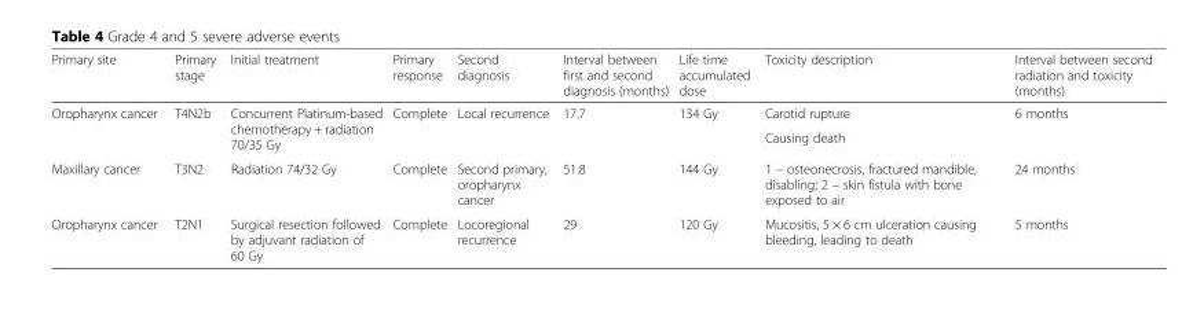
<table><thead><tr><td>Primary site</td><td>Primary stage</td><td>Initial treatment</td><td>Primary response</td><td>Second diagnosis</td><td>Interval between first and second diagnosis (months)</td><td>Life time accumulated dose</td><td>Toxicity description</td><td>Interval between second radiation and toxicity (months)</td></tr></thead><tbody><tr><td rowspan="2">Oropharynx cancer</td><td rowspan="2">T4N2b</td><td rowspan="2">Concurrent Platinum-based chemotherapy + radiation 70/35 Gy</td><td rowspan="2">Complete</td><td rowspan="2">Local recurrence</td><td rowspan="2">17.7</td><td rowspan="2">134 Gy</td><td>Carotid rupture</td><td rowspan="2">6 months</td></tr><tr><td>Causing death</td></tr><tr><td>Maxillary cancer</td><td>T3N2</td><td>Radiation 74/32 Gy</td><td>Complete</td><td>Second primary, oropharynx cancer</td><td>51.8</td><td>144 Gy</td><td>1 – osteonecrosis, fractured mandible, disabling; 2 – skin fistula with bone exposed to air</td><td>24 months</td></tr><tr><td>Oropharynx cancer</td><td>T2N1</td><td>Surgical resection followed by adjuvant radiation of 60 Gy</td><td>Complete</td><td>Locoregional recurrence</td><td>29</td><td>120 Gy</td><td>Mucositis, 5 × 6 cm ulceration causing bleeding, leading to death</td><td>5 months</td></tr></tbody></table>